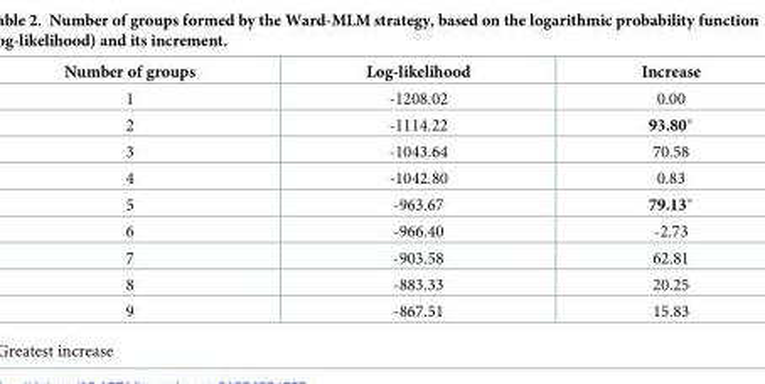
<table><thead><tr><td>Number of groups</td><td>Log-likelihood</td><td>Increase</td></tr></thead><tbody><tr><td>1</td><td>-1208.02</td><td>0.00</td></tr><tr><td>2</td><td>-1114.22</td><td>93.80*</td></tr><tr><td>3</td><td>-1043.64</td><td>70.58</td></tr><tr><td>4</td><td>-1042.80</td><td>0.83</td></tr><tr><td>5</td><td>-963.67</td><td>79.13*</td></tr><tr><td>6</td><td>-966.40</td><td>-2.73</td></tr><tr><td>7</td><td>-903.58</td><td>62.81</td></tr><tr><td>8</td><td>-883.33</td><td>20.25</td></tr><tr><td>9</td><td>-867.51</td><td>15.83</td></tr></tbody></table>